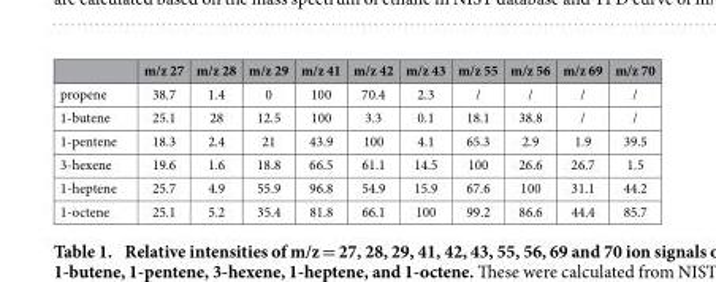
<table><thead><tr><td></td><td>m/z 27</td><td>m/z 28</td><td>m/z 29</td><td>m/z 41</td><td>m/z 42</td><td>m/z 43</td><td>m/z 55</td><td>m/z 56</td><td>m/z 69</td><td>m/z 70</td></tr></thead><tbody><tr><td>propene</td><td>38.7</td><td>1.4</td><td>0</td><td>100</td><td>70.4</td><td>2.3</td><td>/</td><td>/</td><td>/</td><td>/</td></tr><tr><td>1-butene</td><td>25.1</td><td>28</td><td>12.5</td><td>100</td><td>3.3</td><td>0.1</td><td>18.1</td><td>38.8</td><td>/</td><td>/</td></tr><tr><td>1-pentene</td><td>18.3</td><td>2.4</td><td>21</td><td>43.9</td><td>100</td><td>4.1</td><td>65.3</td><td>2.9</td><td>1.9</td><td>39.5</td></tr><tr><td>3-hexene</td><td>19.6</td><td>1.6</td><td>18.8</td><td>66.5</td><td>61.1</td><td>14.5</td><td>100</td><td>26.6</td><td>26.7</td><td>1.5</td></tr><tr><td>1-heptene</td><td>25.7</td><td>4.9</td><td>55.9</td><td>96.8</td><td>54.9</td><td>15.9</td><td>67.6</td><td>100</td><td>31.1</td><td>44.2</td></tr><tr><td>1-octene</td><td>25.1</td><td>5.2</td><td>35.4</td><td>81.8</td><td>66.1</td><td>100</td><td>99.2</td><td>86.6</td><td>44.4</td><td>85.7</td></tr></tbody></table>